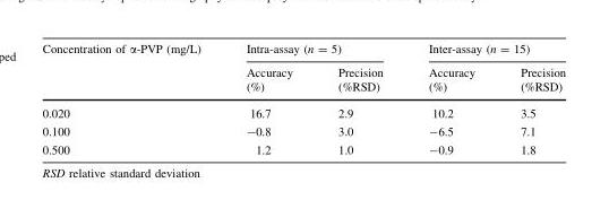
<table><thead><tr><td rowspan="2">Concentration of α-PVP (mg/L)</td><td colspan="2">Intra-assay (n = 5)</td><td colspan="2">Inter-assay (n = 15)</td></tr><tr><td>Accuracy (%)</td><td>Precision (%RSD)</td><td>Accuracy (%)</td><td>Precision (%RSD)</td></tr></thead><tbody><tr><td>0.020</td><td>16.7</td><td>2.9</td><td>10.2</td><td>3.5</td></tr><tr><td>0.100</td><td>-0.8</td><td>3.0</td><td>-6.5</td><td>7.1</td></tr><tr><td>0.500</td><td>1.2</td><td>1.0</td><td>-0.9</td><td>1.8</td></tr></tbody></table>